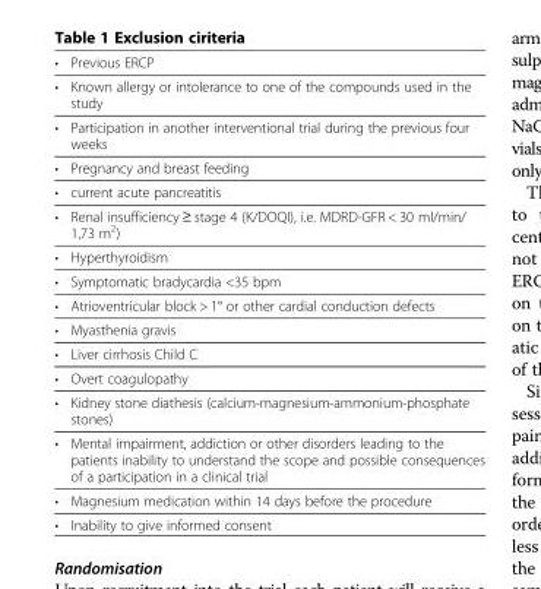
<table><tbody><tr><td>•</td><td>Previous ERCP</td></tr><tr><td>•</td><td>Known allergy or intolerance to one of the compounds used in the study</td></tr><tr><td>•</td><td>Participation in another interventional trial during the previous four weeks</td></tr><tr><td>•</td><td>Pregnancy and breast feeding</td></tr><tr><td>•</td><td>current acute pancreatitis</td></tr><tr><td>•</td><td>Renal insufficiency ≥ stage 4 (K/DOQI), i.e. MDRD-GFR &lt; 30 ml/min/ 1,73 m<sup>2</sup>)</td></tr><tr><td>•</td><td>Hyperthyroidism</td></tr><tr><td>•</td><td>Symptomatic bradycardia &lt;35 bpm</td></tr><tr><td>•</td><td>Atrioventricular block &gt; 1° or other cardial conduction defects</td></tr><tr><td>•</td><td>Myasthenia gravis</td></tr><tr><td>•</td><td>Liver cirrhosis Child C</td></tr><tr><td>•</td><td>Overt coagulopathy</td></tr><tr><td>•</td><td>Kidney stone diathesis (calcium-magnesium-ammonium-phosphate stones)</td></tr><tr><td>•</td><td>Mental impairment, addiction or other disorders leading to the patients inability to understand the scope and possible consequences of a participation in a clinical trial</td></tr><tr><td>•</td><td>Magnesium medication within 14 days before the procedure</td></tr><tr><td>•</td><td>Inability to give informed consent</td></tr></tbody></table>